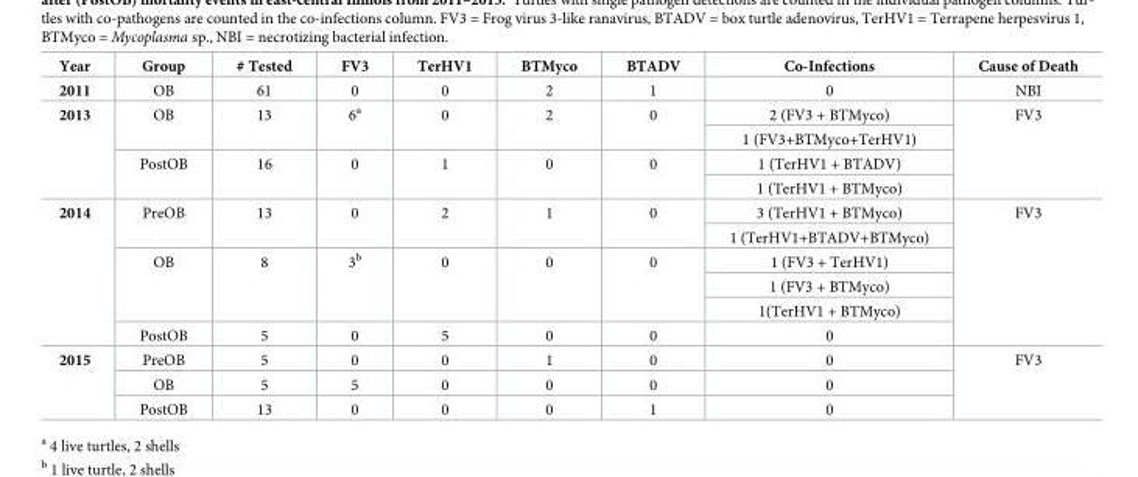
<table><thead><tr><td>Year</td><td>Group</td><td># Tested</td><td>FV3</td><td>TerHV1</td><td>BTMyco</td><td>BTADV</td><td>Co-Infections</td><td>Cause of Death</td></tr></thead><tbody><tr><td>2011</td><td>OB</td><td>61</td><td>0</td><td>0</td><td>2</td><td>1</td><td>0</td><td>NBI</td></tr><tr><td rowspan="4">2013</td><td rowspan="2">OB</td><td rowspan="2">13</td><td rowspan="2">6<sup>a</sup></td><td rowspan="2">0</td><td rowspan="2">2</td><td rowspan="2">0</td><td>2 (FV3 + BTMyco)</td><td rowspan="4">FV3</td></tr><tr><td>1 (FV3+BTMyco+TerHV1)</td></tr><tr><td rowspan="2">PostOB</td><td rowspan="2">16</td><td rowspan="2">0</td><td rowspan="2">1</td><td rowspan="2">0</td><td rowspan="2">0</td><td>1 (TerHV1 + BTADV)</td></tr><tr><td>1 (TerHV1 + BTMyco)</td></tr><tr><td rowspan="6">2014</td><td rowspan="2">PreOB</td><td rowspan="2">13</td><td rowspan="2">0</td><td rowspan="2">2</td><td rowspan="2">1</td><td rowspan="2">0</td><td>3 (TerHV1 + BTMyco)</td><td rowspan="6">FV3</td></tr><tr><td>1 (TerHV1+BTADV+BTMyco)</td></tr><tr><td rowspan="3">OB</td><td rowspan="3">8</td><td rowspan="3">3<sup>b</sup></td><td rowspan="3">0</td><td rowspan="3">0</td><td rowspan="3">0</td><td>1 (FV3 + TerHV1)</td></tr><tr><td>1 (FV3 + BTMyco)</td></tr><tr><td>1(TerHV1 + BTMyco)</td></tr><tr><td>PostOB</td><td>5</td><td>0</td><td>5</td><td>0</td><td>0</td><td>0</td></tr><tr><td rowspan="3">2015</td><td>PreOB</td><td>5</td><td>0</td><td>0</td><td>1</td><td>0</td><td>0</td><td rowspan="3">FV3</td></tr><tr><td>OB</td><td>5</td><td>5</td><td>0</td><td>0</td><td>0</td><td>0</td></tr><tr><td>PostOB</td><td>13</td><td>0</td><td>0</td><td>0</td><td>1</td><td>0</td></tr></tbody></table>